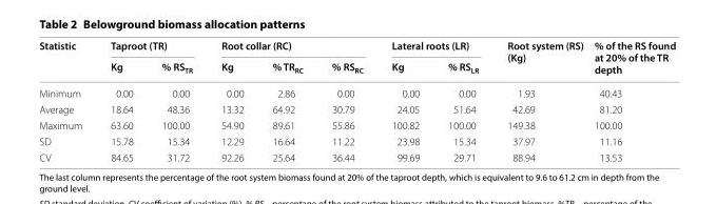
<table><thead><tr><td rowspan="2">Statistic</td><td colspan="2">Taproot (TR)</td><td colspan="3">Root collar (RC)</td><td colspan="2">Lateral roots (LR)</td><td rowspan="2">Root system (RS) (Kg)</td><td rowspan="2">% of the RS found at 20% of the TR depth</td></tr><tr><td>Kg</td><td>% RS<sub>TR</sub></td><td>Kg</td><td>% TR<sub>RC</sub></td><td>% RS<sub>RC</sub></td><td>Kg</td><td>% RS<sub>LR</sub></td></tr></thead><tbody><tr><td>Minimum</td><td>0.00</td><td>0.00</td><td>0.00</td><td>2.86</td><td>0.00</td><td>0.00</td><td>0.00</td><td>1.93</td><td>40.43</td></tr><tr><td>Average</td><td>18.64</td><td>48.36</td><td>13.32</td><td>64.92</td><td>30.79</td><td>24.05</td><td>51.64</td><td>42.69</td><td>81.20</td></tr><tr><td>Maximum</td><td>63.60</td><td>100.00</td><td>54.90</td><td>89.61</td><td>55.86</td><td>100.82</td><td>100.00</td><td>149.38</td><td>100.00</td></tr><tr><td>SD</td><td>15.78</td><td>15.34</td><td>12.29</td><td>16.64</td><td>11.22</td><td>23.98</td><td>15.34</td><td>37.97</td><td>11.16</td></tr><tr><td>CV</td><td>84.65</td><td>31.72</td><td>92.26</td><td>25.64</td><td>36.44</td><td>99.69</td><td>29.71</td><td>88.94</td><td>13.53</td></tr></tbody></table>